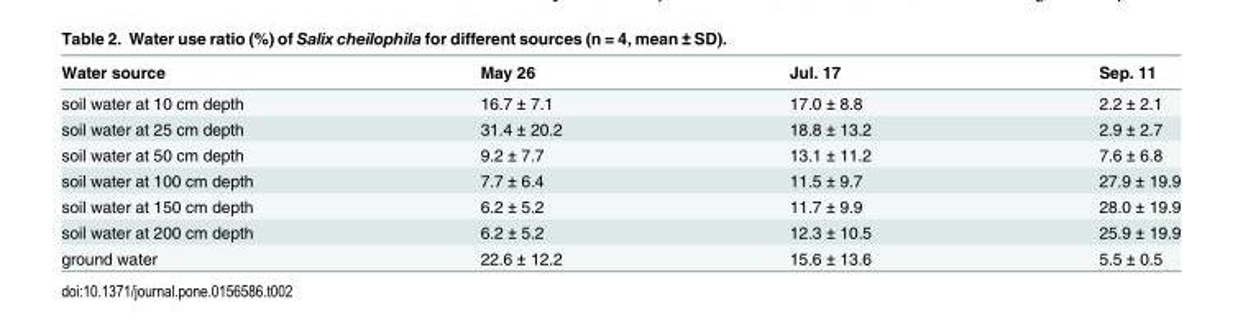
<table><thead><tr><td>Water source</td><td>May 26</td><td>Jul. 17</td><td>Sep. 11</td></tr></thead><tbody><tr><td>soil water at 10 cm depth</td><td>16.7 ± 7.1</td><td>17.0 ± 8.8</td><td>2.2 ± 2.1</td></tr><tr><td>soil water at 25 cm depth</td><td>31.4 ± 20.2</td><td>18.8 ± 13.2</td><td>2.9 ± 2.7</td></tr><tr><td>soil water at 50 cm depth</td><td>9.2 ± 7.7</td><td>13.1 ± 11.2</td><td>7.6 ± 6.8</td></tr><tr><td>soil water at 100 cm depth</td><td>7.7 ± 6.4</td><td>11.5 ± 9.7</td><td>27.9 ± 19.9</td></tr><tr><td>soil water at 150 cm depth</td><td>6.2 ± 5.2</td><td>11.7 ± 9.9</td><td>28.0 ± 19.9</td></tr><tr><td>soil water at 200 cm depth</td><td>6.2 ± 5.2</td><td>12.3 ± 10.5</td><td>25.9 ± 19.9</td></tr><tr><td>ground water</td><td>22.6 ± 12.2</td><td>15.6 ± 13.6</td><td>5.5 ± 0.5</td></tr></tbody></table>